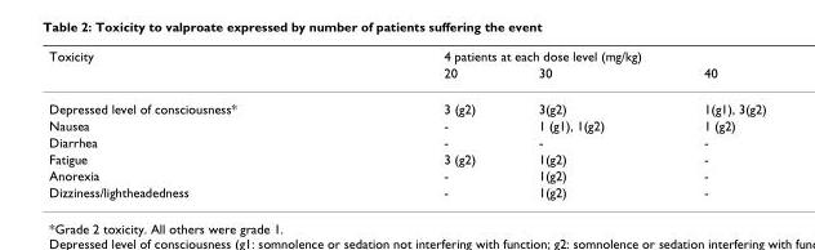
<table><thead><tr><td rowspan="2">Toxicity</td><td colspan="3">4 patients at each dose level (mg/kg)</td></tr><tr><td>20</td><td>30</td><td>40</td></tr></thead><tbody><tr><td>Depressed level of consciousness*</td><td>3 (g2)</td><td>3(g2)</td><td>1(g1), 3(g2)</td></tr><tr><td>Nausea</td><td>-</td><td>1 (g1), 1(g2)</td><td>1 (g2)</td></tr><tr><td>Diarrhea</td><td>-</td><td>-</td><td>-</td></tr><tr><td>Fatigue</td><td>3 (g2)</td><td>1(g2)</td><td>-</td></tr><tr><td>Anorexia</td><td>-</td><td>1(g2)</td><td>-</td></tr><tr><td>Dizziness/lightheadedness</td><td>-</td><td>1(g2)</td><td>-</td></tr></tbody></table>